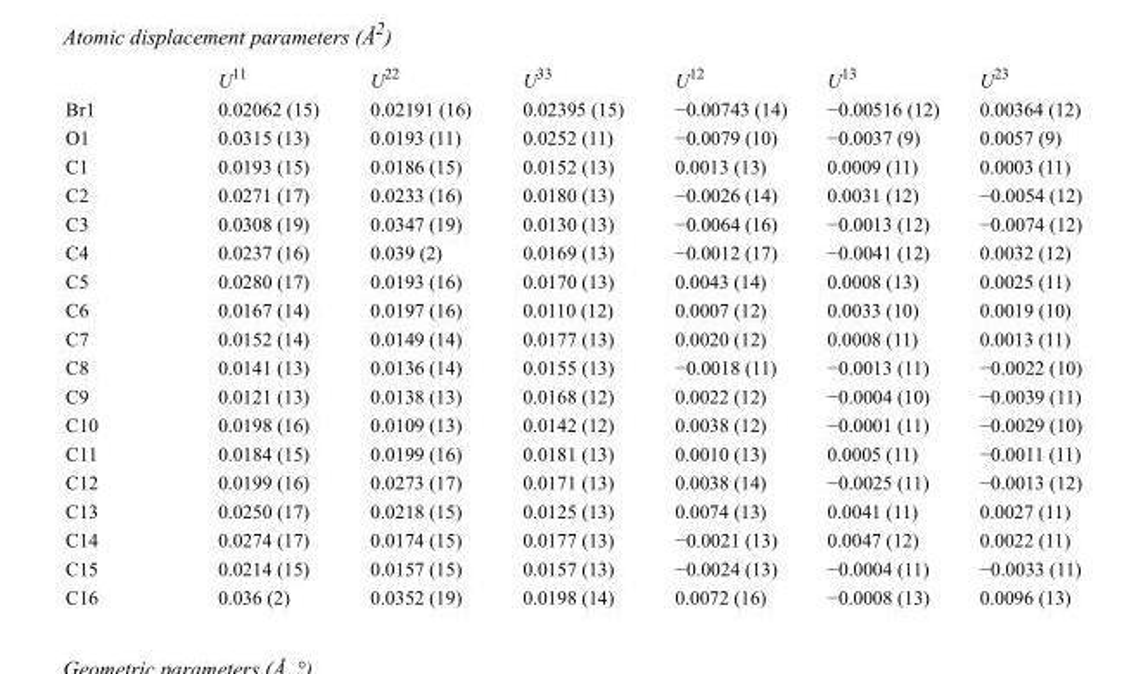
<table><thead><tr><td></td><td>U<sup>11</sup></td><td>U<sup>22</sup></td><td>U<sup>33</sup></td><td>U<sup>12</sup></td><td>U<sup>13</sup></td><td>U<sup>23</sup></td></tr></thead><tbody><tr><td>Br1</td><td>0.02062 (15)</td><td>0.02191 (16)</td><td>0.02395 (15)</td><td>−0.00743 (14)</td><td>−0.00516 (12)</td><td>0.00364 (12)</td></tr><tr><td>O1</td><td>0.0315 (13)</td><td>0.0193 (11)</td><td>0.0252 (11)</td><td>−0.0079 (10)</td><td>−0.0037 (9)</td><td>0.0057 (9)</td></tr><tr><td>C1</td><td>0.0193 (15)</td><td>0.0186 (15)</td><td>0.0152 (13)</td><td>0.0013 (13)</td><td>0.0009 (11)</td><td>0.0003 (11)</td></tr><tr><td>C2</td><td>0.0271 (17)</td><td>0.0233 (16)</td><td>0.0180 (13)</td><td>−0.0026 (14)</td><td>0.0031 (12)</td><td>−0.0054 (12)</td></tr><tr><td>C3</td><td>0.0308 (19)</td><td>0.0347 (19)</td><td>0.0130 (13)</td><td>−0.0064 (16)</td><td>−0.0013 (12)</td><td>−0.0074 (12)</td></tr><tr><td>C4</td><td>0.0237 (16)</td><td>0.039 (2)</td><td>0.0169 (13)</td><td>−0.0012 (17)</td><td>−0.0041 (12)</td><td>0.0032 (12)</td></tr><tr><td>C5</td><td>0.0280 (17)</td><td>0.0193 (16)</td><td>0.0170 (13)</td><td>0.0043 (14)</td><td>0.0008 (13)</td><td>0.0025 (11)</td></tr><tr><td>C6</td><td>0.0167 (14)</td><td>0.0197 (16)</td><td>0.0110 (12)</td><td>0.0007 (12)</td><td>0.0033 (10)</td><td>0.0019 (10)</td></tr><tr><td>C7</td><td>0.0152 (14)</td><td>0.0149 (14)</td><td>0.0177 (13)</td><td>0.0020 (12)</td><td>0.0008 (11)</td><td>0.0013 (11)</td></tr><tr><td>C8</td><td>0.0141 (13)</td><td>0.0136 (14)</td><td>0.0155 (13)</td><td>−0.0018 (11)</td><td>−0.0013 (11)</td><td>−0.0022 (10)</td></tr><tr><td>C9</td><td>0.0121 (13)</td><td>0.0138 (13)</td><td>0.0168 (12)</td><td>0.0022 (12)</td><td>−0.0004 (10)</td><td>−0.0039 (11)</td></tr><tr><td>C10</td><td>0.0198 (16)</td><td>0.0109 (13)</td><td>0.0142 (12)</td><td>0.0038 (12)</td><td>−0.0001 (11)</td><td>−0.0029 (10)</td></tr><tr><td>C11</td><td>0.0184 (15)</td><td>0.0199 (16)</td><td>0.0181 (13)</td><td>0.0010 (13)</td><td>0.0005 (11)</td><td>−0.0011 (11)</td></tr><tr><td>C12</td><td>0.0199 (16)</td><td>0.0273 (17)</td><td>0.0171 (13)</td><td>0.0038 (14)</td><td>−0.0025 (11)</td><td>−0.0013 (12)</td></tr><tr><td>C13</td><td>0.0250 (17)</td><td>0.0218 (15)</td><td>0.0125 (13)</td><td>0.0074 (13)</td><td>0.0041 (11)</td><td>0.0027 (11)</td></tr><tr><td>C14</td><td>0.0274 (17)</td><td>0.0174 (15)</td><td>0.0177 (13)</td><td>−0.0021 (13)</td><td>0.0047 (12)</td><td>0.0022 (11)</td></tr><tr><td>C15</td><td>0.0214 (15)</td><td>0.0157 (15)</td><td>0.0157 (13)</td><td>−0.0024 (13)</td><td>−0.0004 (11)</td><td>−0.0033 (11)</td></tr><tr><td>C16</td><td>0.036 (2)</td><td>0.0352 (19)</td><td>0.0198 (14)</td><td>0.0072 (16)</td><td>−0.0008 (13)</td><td>0.0096 (13)</td></tr></tbody></table>